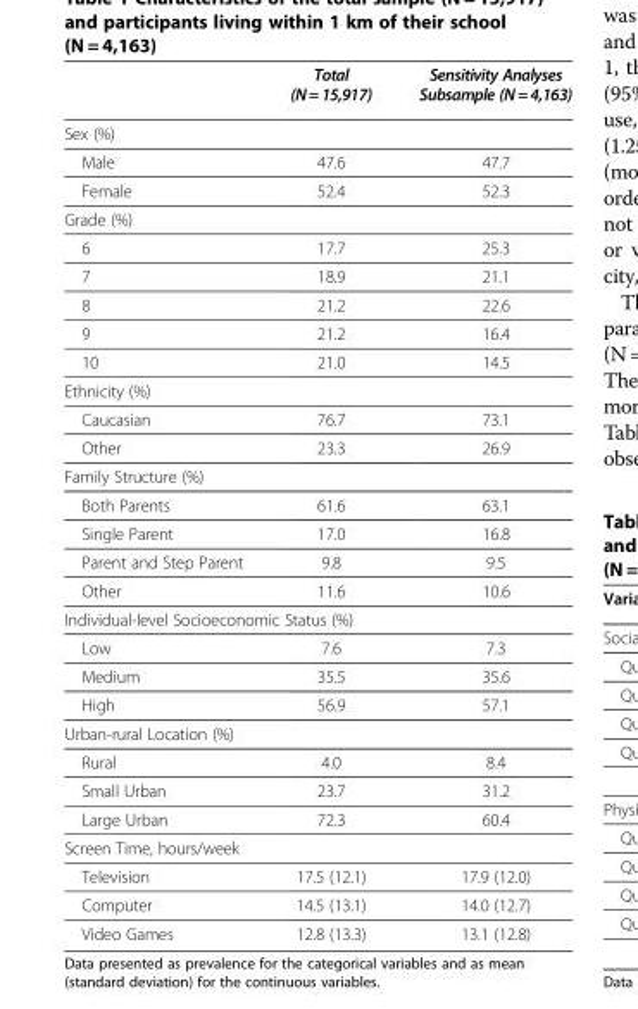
<table><thead><tr><td></td><td>Total (N=15,917)</td><td>Sensitivity Analyses Subsample (N=4,163)</td></tr></thead><tbody><tr><td colspan="3">Sex (%)</td></tr><tr><td>Male</td><td>47.6</td><td>47.7</td></tr><tr><td>Female</td><td>52.4</td><td>52.3</td></tr><tr><td colspan="3">Grade (%)</td></tr><tr><td>6</td><td>17.7</td><td>25.3</td></tr><tr><td>7</td><td>18.9</td><td>21.1</td></tr><tr><td>8</td><td>21.2</td><td>22.6</td></tr><tr><td>9</td><td>21.2</td><td>16.4</td></tr><tr><td>10</td><td>21.0</td><td>14.5</td></tr><tr><td colspan="3">Ethnicity (%)</td></tr><tr><td>Caucasian</td><td>76.7</td><td>73.1</td></tr><tr><td>Other</td><td>23.3</td><td>26.9</td></tr><tr><td colspan="3">Family Structure (%)</td></tr><tr><td>Both Parents</td><td>61.6</td><td>63.1</td></tr><tr><td>Single Parent</td><td>17.0</td><td>16.8</td></tr><tr><td>Parent and Step Parent</td><td>9.8</td><td>9.5</td></tr><tr><td>Other</td><td>11.6</td><td>10.6</td></tr><tr><td colspan="3">Individual-level Socioeconomic Status (%)</td></tr><tr><td>Low</td><td>7.6</td><td>7.3</td></tr><tr><td>Medium</td><td>35.5</td><td>35.6</td></tr><tr><td>High</td><td>56.9</td><td>57.1</td></tr><tr><td colspan="3">Urban-rural Location (%)</td></tr><tr><td>Rural</td><td>4.0</td><td>8.4</td></tr><tr><td>Small Urban</td><td>23.7</td><td>31.2</td></tr><tr><td>Large Urban</td><td>72.3</td><td>60.4</td></tr><tr><td colspan="3">Screen Time, hours/week</td></tr><tr><td>Television</td><td>17.5 (12.1)</td><td>17.9 (12.0)</td></tr><tr><td>Computer</td><td>14.5 (13.1)</td><td>14.0 (12.7)</td></tr><tr><td>Video Games</td><td>12.8 (13.3)</td><td>13.1 (12.8)</td></tr></tbody></table>